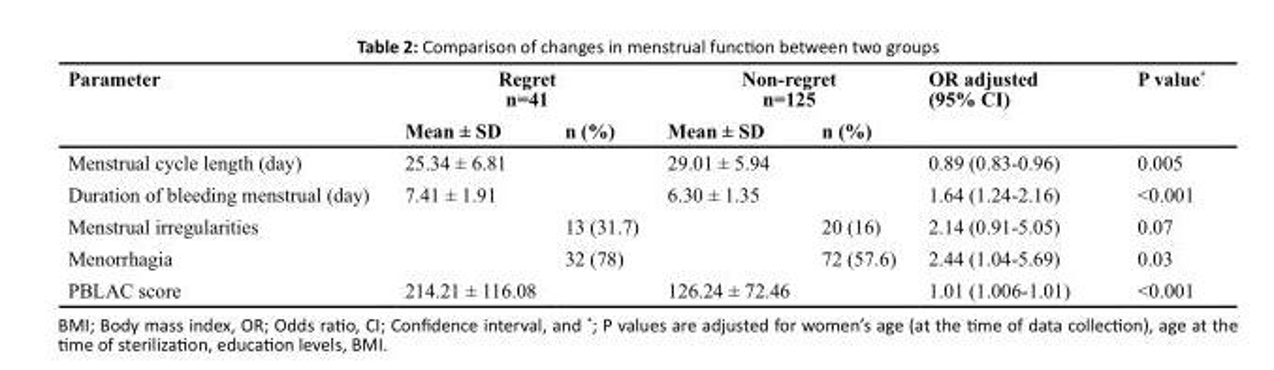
<table><thead><tr><td rowspan="2">Parameter</td><td colspan="2">Regret n=41</td><td colspan="2">Non-regret n=125</td><td rowspan="2">OR adjusted (95% CI)</td><td rowspan="2">P value*</td></tr><tr><td>Mean ± SD</td><td>n (%)</td><td>Mean ± SD</td><td>n (%)</td></tr></thead><tbody><tr><td>Menstrual cycle length (day)</td><td>25.34 ± 6.81</td><td></td><td>29.01 ± 5.94</td><td></td><td>0.89 (0.83-0.96)</td><td>0.005</td></tr><tr><td>Duration of bleeding menstrual (day)</td><td>7.41 ± 1.91</td><td></td><td>6.30 ± 1.35</td><td></td><td>1.64 (1.24-2.16)</td><td>&lt;0.001</td></tr><tr><td>Menstrual irregularities</td><td></td><td>13 (31.7)</td><td></td><td>20 (16)</td><td>2.14 (0.91-5.05)</td><td>0.07</td></tr><tr><td>Menorrhagia</td><td></td><td>32 (78)</td><td></td><td>72 (57.6)</td><td>2.44 (1.04-5.69)</td><td>0.03</td></tr><tr><td>PBLAC score</td><td>214.21 ± 116.08</td><td></td><td>126.24 ± 72.46</td><td></td><td>1.01 (1.006-1.01)</td><td>&lt;0.001</td></tr></tbody></table>